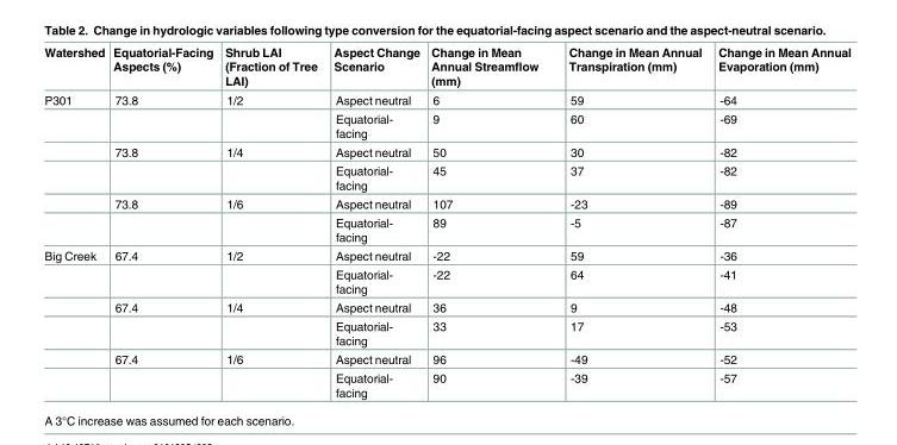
<table><thead><tr><td>Watershed</td><td>Equatorial-Facing Aspects (%)</td><td>Shrub LAI (Fraction of Tree LAI)</td><td>Aspect Change Scenario</td><td>Change in Mean Annual Streamflow (mm)</td><td>Change in Mean Annual Transpiration (mm)</td><td>Change in Mean Annual Evaporation (mm)</td></tr></thead><tbody><tr><td rowspan="6">P301</td><td>73.8</td><td>1/2</td><td>Aspect neutral</td><td>6</td><td>59</td><td>-64</td></tr><tr><td></td><td></td><td>Equatorial- facing</td><td>9</td><td>60</td><td>-69</td></tr><tr><td>73.8</td><td>1/4</td><td>Aspect neutral</td><td>50</td><td>30</td><td>-82</td></tr><tr><td></td><td></td><td>Equatorial- facing</td><td>45</td><td>37</td><td>-82</td></tr><tr><td>73.8</td><td>1/6</td><td>Aspect neutral</td><td>107</td><td>-23</td><td>-89</td></tr><tr><td></td><td></td><td>Equatorial- facing</td><td>89</td><td>-5</td><td>-87</td></tr><tr><td rowspan="6">Big Creek</td><td>67.4</td><td>1/2</td><td>Aspect neutral</td><td>-22</td><td>59</td><td>-36</td></tr><tr><td></td><td></td><td>Equatorial- facing</td><td>-22</td><td>64</td><td>-41</td></tr><tr><td>67.4</td><td>1/4</td><td>Aspect neutral</td><td>36</td><td>9</td><td>-48</td></tr><tr><td></td><td></td><td>Equatorial- facing</td><td>33</td><td>17</td><td>-53</td></tr><tr><td>67.4</td><td>1/6</td><td>Aspect neutral</td><td>96</td><td>-49</td><td>-52</td></tr><tr><td></td><td></td><td>Equatorial- facing</td><td>90</td><td>-39</td><td>-57</td></tr></tbody></table>